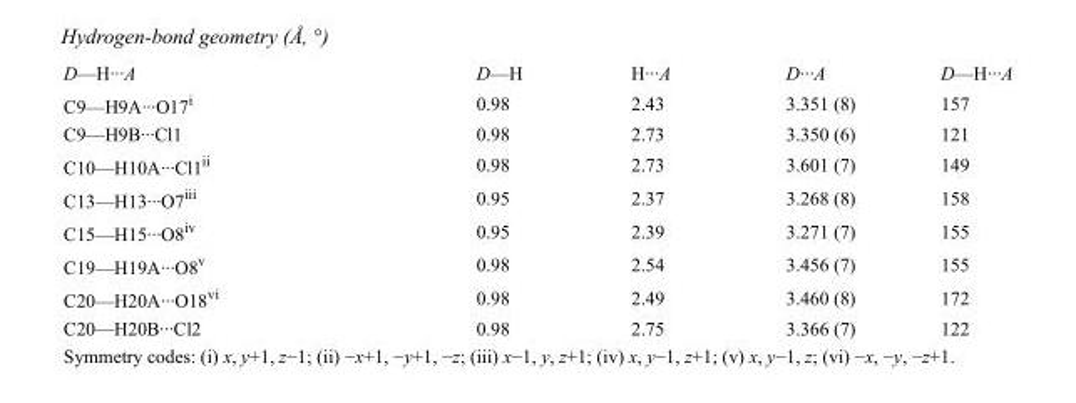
<table><tbody><tr><td>D—H···A</td><td>D—H</td><td>H···A</td><td>D···A</td><td>D—H···A</td></tr><tr><td>C9—H9A···O17<sup>i</sup></td><td>0.98</td><td>2.43</td><td>3.351 (8)</td><td>157</td></tr><tr><td>C9—H9B···Cl1</td><td>0.98</td><td>2.73</td><td>3.350 (6)</td><td>121</td></tr><tr><td>C10—H10A···Cl1<sup>ii</sup></td><td>0.98</td><td>2.73</td><td>3.601 (7)</td><td>149</td></tr><tr><td>C13—H13···O7<sup>iii</sup></td><td>0.95</td><td>2.37</td><td>3.268 (8)</td><td>158</td></tr><tr><td>C15—H15···O8<sup>iv</sup></td><td>0.95</td><td>2.39</td><td>3.271 (7)</td><td>155</td></tr><tr><td>C19—H19A···O8<sup>v</sup></td><td>0.98</td><td>2.54</td><td>3.456 (7)</td><td>155</td></tr><tr><td>C20—H20A···O18<sup>vi</sup></td><td>0.98</td><td>2.49</td><td>3.460 (8)</td><td>172</td></tr><tr><td>C20—H20B···Cl2</td><td>0.98</td><td>2.75</td><td>3.366 (7)</td><td>122</td></tr></tbody></table>